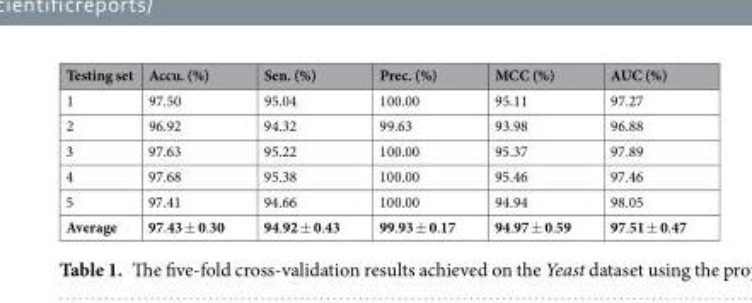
<table><thead><tr><td>Testing set</td><td>Accu. (%)</td><td>Sen. (%)</td><td>Prec. (%)</td><td>MCC (%)</td><td>AUC (%)</td></tr></thead><tbody><tr><td>1</td><td>97.50</td><td>95.04</td><td>100.00</td><td>95.11</td><td>97.27</td></tr><tr><td>2</td><td>96.92</td><td>94.32</td><td>99.63</td><td>93.98</td><td>96.88</td></tr><tr><td>3</td><td>97.63</td><td>95.22</td><td>100.00</td><td>95.37</td><td>97.89</td></tr><tr><td>4</td><td>97.68</td><td>95.38</td><td>100.00</td><td>95.46</td><td>97.46</td></tr><tr><td>5</td><td>97.41</td><td>94.66</td><td>100.00</td><td>94.94</td><td>98.05</td></tr><tr><td>Average</td><td>97.43 ± 0.30</td><td>94.92 ± 0.43</td><td>99.93 ± 0.17</td><td>94.97 ± 0.59</td><td>97.51 ± 0.47</td></tr></tbody></table>